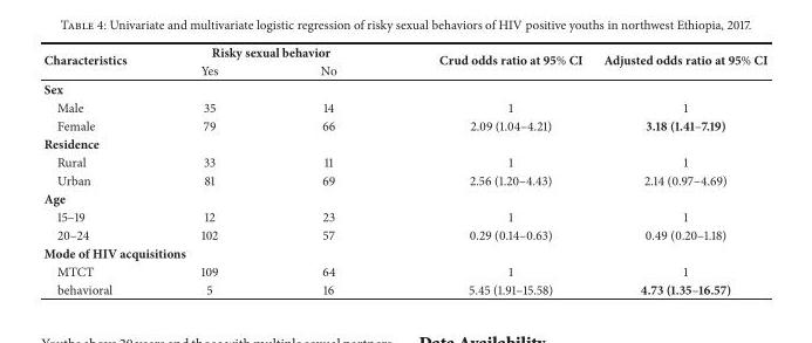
<table><thead><tr><td rowspan="2">Characteristics</td><td colspan="2">Risky sexual behavior</td><td rowspan="2">Crud odds ratio at 95% CI</td><td rowspan="2">Adjusted odds ratio at 95% CI</td></tr><tr><td>Yes</td><td>No</td></tr></thead><tbody><tr><td colspan="5">Sex</td></tr><tr><td>Male</td><td>35</td><td>14</td><td>1</td><td>1</td></tr><tr><td>Female</td><td>79</td><td>66</td><td>2.09 (1.04–4.21)</td><td>3.18 (1.41–7.19)</td></tr><tr><td colspan="5">Residence</td></tr><tr><td>Rural</td><td>33</td><td>11</td><td>1</td><td>1</td></tr><tr><td>Urban</td><td>81</td><td>69</td><td>2.56 (1.20–4.43)</td><td>2.14 (0.97–4.69)</td></tr><tr><td colspan="5">Age</td></tr><tr><td>15–19</td><td>12</td><td>23</td><td>1</td><td>1</td></tr><tr><td>20–24</td><td>102</td><td>57</td><td>0.29 (0.14–0.63)</td><td>0.49 (0.20–1.18)</td></tr><tr><td colspan="5">Mode of HIV acquisitions</td></tr><tr><td>MTCT</td><td>109</td><td>64</td><td>1</td><td>1</td></tr><tr><td>behavioral</td><td>5</td><td>16</td><td>5.45 (1.91–15.58)</td><td>4.73 (1.35–16.57)</td></tr></tbody></table>